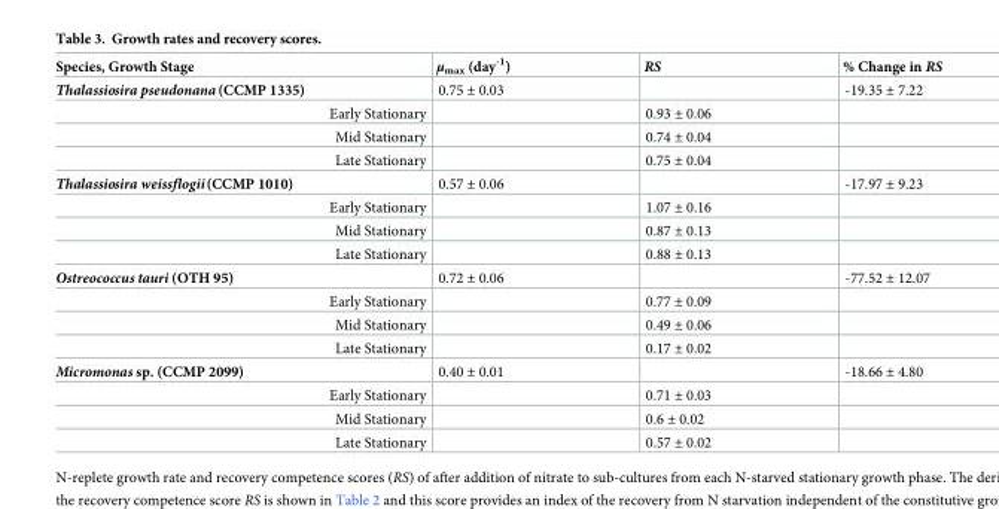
<table><thead><tr><td>Species, Growth Stage</td><td>μ<sub>max</sub> (day<sup>-1</sup>)</td><td>RS</td><td>% Change in RS</td></tr></thead><tbody><tr><td>Thalassiosira pseudonana (CCMP 1335)</td><td>0.75 ± 0.03</td><td></td><td>-19.35 ± 7.22</td></tr><tr><td>Early Stationary</td><td></td><td>0.93 ± 0.06</td><td></td></tr><tr><td>Mid Stationary</td><td></td><td>0.74 ± 0.04</td><td></td></tr><tr><td>Late Stationary</td><td></td><td>0.75 ± 0.04</td><td></td></tr><tr><td>Thalassiosira weissflogii(CCMP 1010)</td><td>0.57 ± 0.06</td><td></td><td>-17.97 ± 9.23</td></tr><tr><td>Early Stationary</td><td></td><td>1.07 ± 0.16</td><td></td></tr><tr><td>Mid Stationary</td><td></td><td>0.87 ± 0.13</td><td></td></tr><tr><td>Late Stationary</td><td></td><td>0.88 ± 0.13</td><td></td></tr><tr><td>Ostreococcus tauri (OTH 95)</td><td>0.72 ± 0.06</td><td></td><td>-77.52 ± 12.07</td></tr><tr><td>Early Stationary</td><td></td><td>0.77 ± 0.09</td><td></td></tr><tr><td>Mid Stationary</td><td></td><td>0.49 ± 0.06</td><td></td></tr><tr><td>Late Stationary</td><td></td><td>0.17 ± 0.02</td><td></td></tr><tr><td>Micromonas sp. (CCMP 2099)</td><td>0.40 ± 0.01</td><td></td><td>-18.66 ± 4.80</td></tr><tr><td>Early Stationary</td><td></td><td>0.71 ± 0.03</td><td></td></tr><tr><td>Mid Stationary</td><td></td><td>0.6 ± 0.02</td><td></td></tr><tr><td>Late Stationary</td><td></td><td>0.57 ± 0.02</td><td></td></tr></tbody></table>